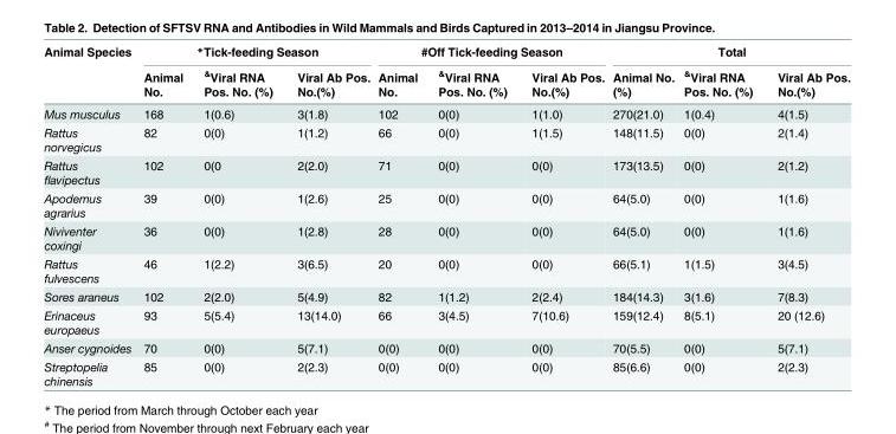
<table><thead><tr><td rowspan="2">Animal Species</td><td colspan="3">*Tick-feeding Season</td><td colspan="3">#Off Tick-feeding Season</td><td colspan="3">Total</td></tr><tr><td>Animal No.</td><td><sup>&amp;</sup>Viral RNA Pos. No. (%)</td><td>Viral Ab Pos. No.(%)</td><td>Animal No.</td><td><sup>&amp;</sup>Viral RNA Pos. No. (%)</td><td>Viral Ab Pos. No.(%)</td><td>Animal No. (%)</td><td><sup>&amp;</sup>Viral RNA Pos. No. (%)</td><td>Viral Ab Pos. No.(%)</td></tr></thead><tbody><tr><td>Mus musculus</td><td>168</td><td>1(0.6)</td><td>3(1.8)</td><td>102</td><td>0(0)</td><td>1(1.0)</td><td>270(21.0)</td><td>1(0.4)</td><td>4(1.5)</td></tr><tr><td>Rattus norvegicus</td><td>82</td><td>0(0)</td><td>1(1.2)</td><td>66</td><td>0(0)</td><td>1(1.5)</td><td>148(11.5)</td><td>0(0)</td><td>2(1.4)</td></tr><tr><td>Rattus flavipectus</td><td>102</td><td>0(0</td><td>2(2.0)</td><td>71</td><td>0(0)</td><td>0(0)</td><td>173(13.5)</td><td>0(0)</td><td>2(1.2)</td></tr><tr><td>Apodemus agrarius</td><td>39</td><td>0(0)</td><td>1(2.6)</td><td>25</td><td>0(0)</td><td>0(0)</td><td>64(5.0)</td><td>0(0)</td><td>1(1.6)</td></tr><tr><td>Niviventer coxingi</td><td>36</td><td>0(0)</td><td>1(2.8)</td><td>28</td><td>0(0)</td><td>0(0)</td><td>64(5.0)</td><td>0(0)</td><td>1(1.6)</td></tr><tr><td>Rattus fulvescens</td><td>46</td><td>1(2.2)</td><td>3(6.5)</td><td>20</td><td>0(0)</td><td>0(0)</td><td>66(5.1)</td><td>1(1.5)</td><td>3(4.5)</td></tr><tr><td>Sores araneus</td><td>102</td><td>2(2.0)</td><td>5(4.9)</td><td>82</td><td>1(1.2)</td><td>2(2.4)</td><td>184(14.3)</td><td>3(1.6)</td><td>7(8.3)</td></tr><tr><td>Erinaceus europaeus</td><td>93</td><td>5(5.4)</td><td>13(14.0)</td><td>66</td><td>3(4.5)</td><td>7(10.6)</td><td>159(12.4)</td><td>8(5.1)</td><td>20 (12.6)</td></tr><tr><td>Anser cygnoides</td><td>70</td><td>0(0)</td><td>5(7.1)</td><td>0(0)</td><td>0(0)</td><td>0(0)</td><td>70(5.5)</td><td>0(0)</td><td>5(7.1)</td></tr><tr><td>Streptopelia chinensis</td><td>85</td><td>0(0)</td><td>2(2.3)</td><td>0(0)</td><td>0(0)</td><td>0(0)</td><td>85(6.6)</td><td>0(0)</td><td>2(2.3)</td></tr></tbody></table>